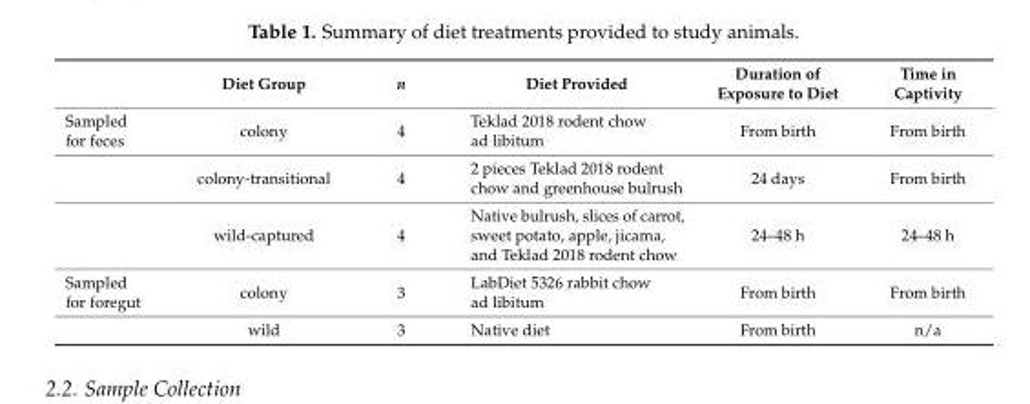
<table><thead><tr><td></td><td>Diet Group</td><td>n</td><td>Diet Provided</td><td>Duration of Exposure to Diet</td><td>Time in Captivity</td></tr></thead><tbody><tr><td rowspan="3">Sampled for feces</td><td>colony</td><td>4</td><td>Teklad 2018 rodent chow ad libitum</td><td>From birth</td><td>From birth</td></tr><tr><td>colony-transitional</td><td>4</td><td>2 pieces Teklad 2018 rodent chow and greenhouse bulrush</td><td>24 days</td><td>From birth</td></tr><tr><td>wild-captured</td><td>4</td><td>Native bulrush, slices of carrot, sweet potato, apple, jicama, and Teklad 2018 rodent chow</td><td>24–48 h</td><td>24–48 h</td></tr><tr><td rowspan="2">Sampled for foregut</td><td>colony</td><td>3</td><td>LabDiet 5326 rabbit chow ad libitum</td><td>From birth</td><td>From birth</td></tr><tr><td>wild</td><td>3</td><td>Native diet</td><td>From birth</td><td>n/a</td></tr></tbody></table>